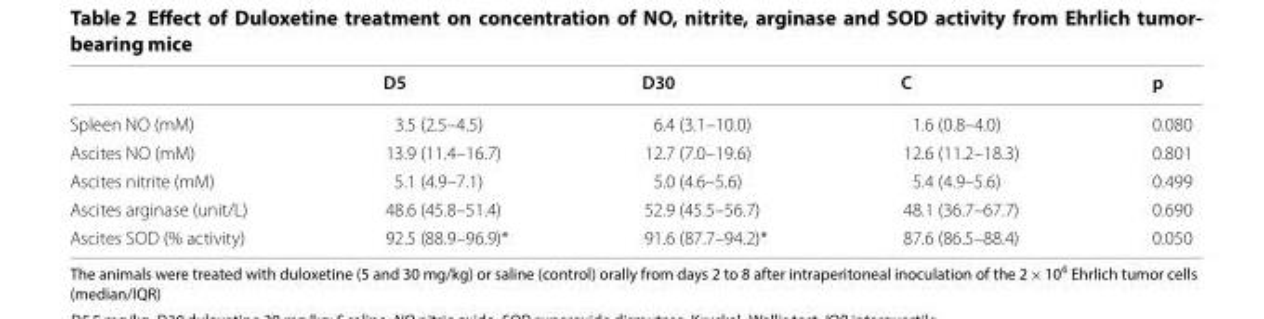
<table><thead><tr><td></td><td>D5</td><td>D30</td><td>C</td><td>p</td></tr></thead><tbody><tr><td>Spleen NO (mM)</td><td>3.5 (2.5–4.5)</td><td>6.4 (3.1–10.0)</td><td>1.6 (0.8–4.0)</td><td>0.080</td></tr><tr><td>Ascites NO (mM)</td><td>13.9 (11.4–16.7)</td><td>12.7 (7.0–19.6)</td><td>12.6 (11.2–18.3)</td><td>0.801</td></tr><tr><td>Ascites nitrite (mM)</td><td>5.1 (4.9–7.1)</td><td>5.0 (4.6–5.6)</td><td>5.4 (4.9–5.6)</td><td>0.499</td></tr><tr><td>Ascites arginase (unit/L)</td><td>48.6 (45.8–51.4)</td><td>52.9 (45.5–56.7)</td><td>48.1 (36.7–67.7)</td><td>0.690</td></tr><tr><td>Ascites SOD (% activity)</td><td>92.5 (88.9–96.9)*</td><td>91.6 (87.7–94.2)*</td><td>87.6 (86.5–88.4)</td><td>0.050</td></tr></tbody></table>